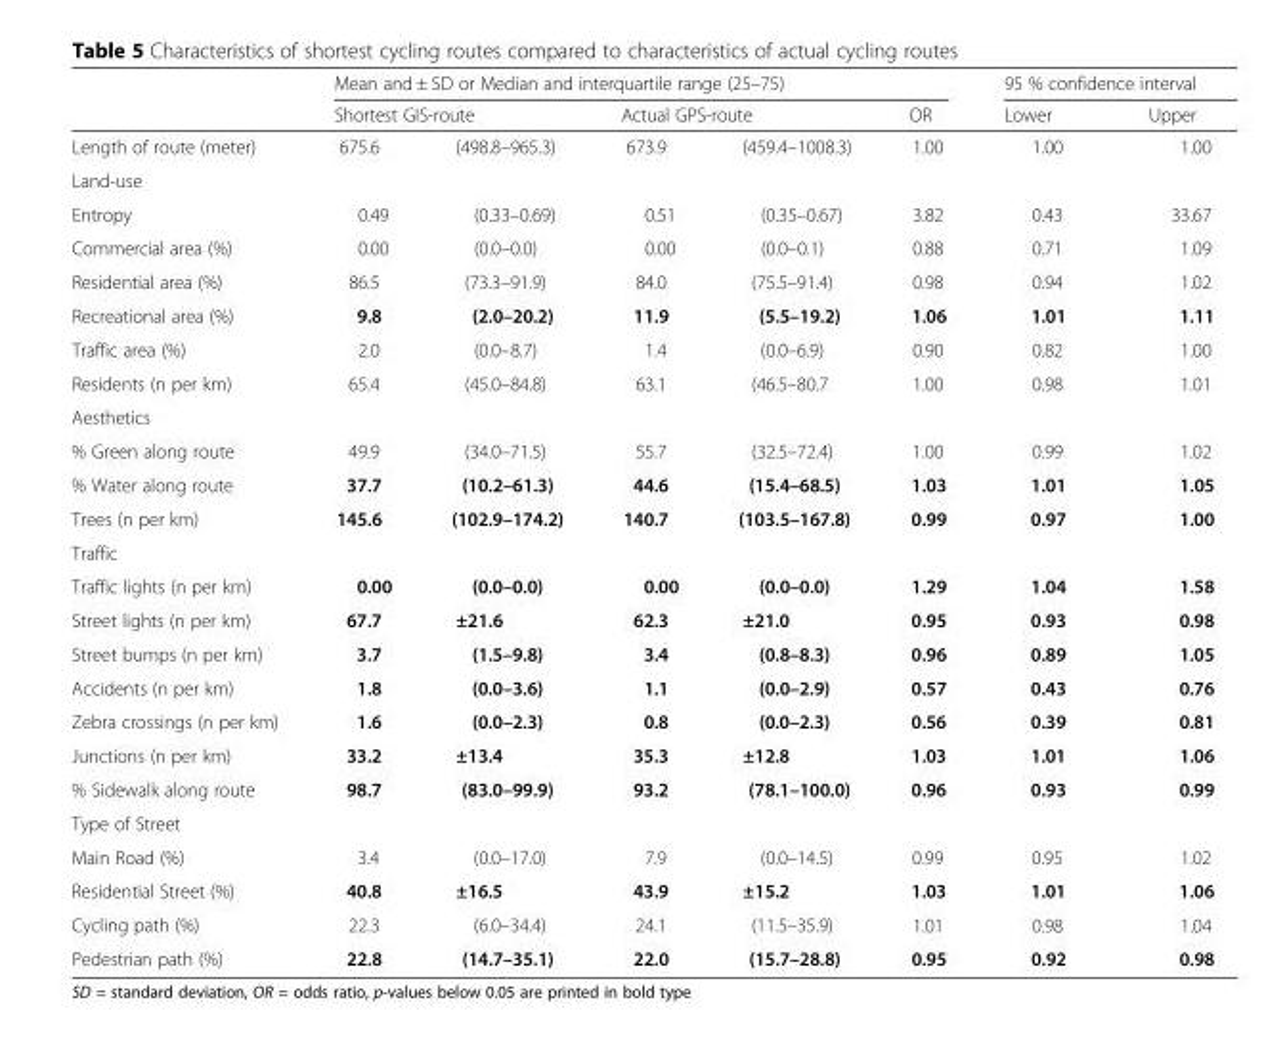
<table><thead><tr><td rowspan="3">Length of route (meter)</td><td colspan="5">Mean and ± SD or Median and interquartile range (25–75)</td><td colspan="2">95 % confidence interval</td></tr><tr><td colspan="2">Shortest GIS-route</td><td colspan="2">Actual GPS-route</td><td rowspan="2">OR 1.00</td><td rowspan="2">Lower 1.00</td><td rowspan="2">Upper 1.00</td></tr><tr><td>675.6</td><td>(498.8–965.3)</td><td>673.9</td><td>(459.4–1008.3)</td></tr></thead><tbody><tr><td colspan="8">Land-use</td></tr><tr><td>Entropy</td><td>0.49</td><td>(0.33–0.69)</td><td>0.51</td><td>(0.35–0.67)</td><td>3.82</td><td>0.43</td><td>33.67</td></tr><tr><td>Commercial area (%)</td><td>0.00</td><td>(0.0–0.0)</td><td>0.00</td><td>(0.0–0.1)</td><td>0.88</td><td>0.71</td><td>1.09</td></tr><tr><td>Residential area (%)</td><td>86.5</td><td>(73.3–91.9)</td><td>84.0</td><td>(75.5–91.4)</td><td>0.98</td><td>0.94</td><td>1.02</td></tr><tr><td>Recreational area (%)</td><td>9.8</td><td>(2.0–20.2)</td><td>11.9</td><td>(5.5–19.2)</td><td>1.06</td><td>1.01</td><td>1.11</td></tr><tr><td>Traffic area (%)</td><td>2.0</td><td>(0.0–8.7)</td><td>1.4</td><td>(0.0–6.9)</td><td>0.90</td><td>0.82</td><td>1.00</td></tr><tr><td>Residents (n per km)</td><td>65.4</td><td>(45.0–84.8)</td><td>63.1</td><td>(46.5–80.7</td><td>1.00</td><td>0.98</td><td>1.01</td></tr><tr><td colspan="8">Aesthetics</td></tr><tr><td>% Green along route</td><td>49.9</td><td>(34.0–71.5)</td><td>55.7</td><td>(32.5–72.4)</td><td>1.00</td><td>0.99</td><td>1.02</td></tr><tr><td>% Water along route</td><td>37.7</td><td>(10.2–61.3)</td><td>44.6</td><td>(15.4–68.5)</td><td>1.03</td><td>1.01</td><td>1.05</td></tr><tr><td>Trees (n per km)</td><td>145.6</td><td>(102.9–174.2)</td><td>140.7</td><td>(103.5–167.8)</td><td>0.99</td><td>0.97</td><td>1.00</td></tr><tr><td colspan="8">Traffic</td></tr><tr><td>Traffic lights (n per km)</td><td>0.00</td><td>(0.0–0.0)</td><td>0.00</td><td>(0.0–0.0)</td><td>1.29</td><td>1.04</td><td>1.58</td></tr><tr><td>Street lights (n per km)</td><td>67.7</td><td>±21.6</td><td>62.3</td><td>±21.0</td><td>0.95</td><td>0.93</td><td>0.98</td></tr><tr><td>Street bumps (n per km)</td><td>3.7</td><td>(1.5–9.8)</td><td>3.4</td><td>(0.8–8.3)</td><td>0.96</td><td>0.89</td><td>1.05</td></tr><tr><td>Accidents (n per km)</td><td>1.8</td><td>(0.0–3.6)</td><td>1.1</td><td>(0.0–2.9)</td><td>0.57</td><td>0.43</td><td>0.76</td></tr><tr><td>Zebra crossings (n per km)</td><td>1.6</td><td>(0.0–2.3)</td><td>0.8</td><td>(0.0–2.3)</td><td>0.56</td><td>0.39</td><td>0.81</td></tr><tr><td>Junctions (n per km)</td><td>33.2</td><td>±13.4</td><td>35.3</td><td>±12.8</td><td>1.03</td><td>1.01</td><td>1.06</td></tr><tr><td>% Sidewalk along route</td><td>98.7</td><td>(83.0–99.9)</td><td>93.2</td><td>(78.1–100.0)</td><td>0.96</td><td>0.93</td><td>0.99</td></tr><tr><td colspan="8">Type of Street</td></tr><tr><td>Main Road (%)</td><td>3.4</td><td>(0.0–17.0)</td><td>7.9</td><td>(0.0–14.5)</td><td>0.99</td><td>0.95</td><td>1.02</td></tr><tr><td>Residential Street (%)</td><td>40.8</td><td>±16.5</td><td>43.9</td><td>±15.2</td><td>1.03</td><td>1.01</td><td>1.06</td></tr><tr><td>Cycling path (%)</td><td>22.3</td><td>(6.0–34.4)</td><td>24.1</td><td>(11.5–35.9)</td><td>1.01</td><td>0.98</td><td>1.04</td></tr><tr><td>Pedestrian path (%)</td><td>22.8</td><td>(14.7–35.1)</td><td>22.0</td><td>(15.7–28.8)</td><td>0.95</td><td>0.92</td><td>0.98</td></tr></tbody></table>